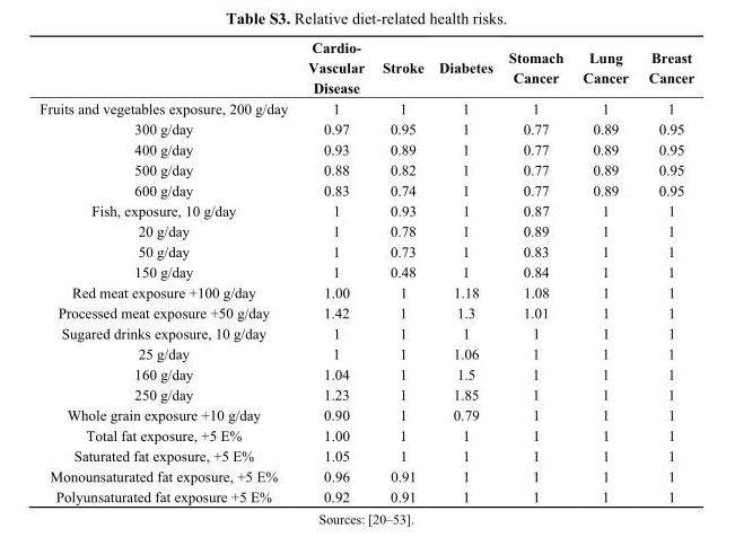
<table><thead><tr><td></td><td>Cardio- Vascular Disease</td><td>Stroke</td><td>Diabetes</td><td>Stomach Cancer</td><td>Lung Cancer</td><td>Breast Cancer</td></tr></thead><tbody><tr><td>Fruits and vegetables exposure, 200 g/day</td><td>1</td><td>1</td><td>1</td><td>1</td><td>1</td><td>1</td></tr><tr><td>300 g/day</td><td>0.97</td><td>0.95</td><td>1</td><td>0.77</td><td>0.89</td><td>0.95</td></tr><tr><td>400 g/day</td><td>0.93</td><td>0.89</td><td>1</td><td>0.77</td><td>0.89</td><td>0.95</td></tr><tr><td>500 g/day</td><td>0.88</td><td>0.82</td><td>1</td><td>0.77</td><td>0.89</td><td>0.95</td></tr><tr><td>600 g/day</td><td>0.83</td><td>0.74</td><td>1</td><td>0.77</td><td>0.89</td><td>0.95</td></tr><tr><td>Fish, exposure, 10 g/day</td><td>1</td><td>0.93</td><td>1</td><td>0.87</td><td>1</td><td>1</td></tr><tr><td>20 g/day</td><td>1</td><td>0.78</td><td>1</td><td>0.89</td><td>1</td><td>1</td></tr><tr><td>50 g/day</td><td>1</td><td>0.73</td><td>1</td><td>0.83</td><td>1</td><td>1</td></tr><tr><td>150 g/day</td><td>1</td><td>0.48</td><td>1</td><td>0.84</td><td>1</td><td>1</td></tr><tr><td>Red meat exposure +100 g/day</td><td>1.00</td><td>1</td><td>1.18</td><td>1.08</td><td>1</td><td>1</td></tr><tr><td>Processed meat exposure +50 g/day</td><td>1.42</td><td>1</td><td>1.3</td><td>1.01</td><td>1</td><td>1</td></tr><tr><td>Sugared drinks exposure, 10 g/day</td><td>1</td><td>1</td><td>1</td><td>1</td><td>1</td><td>1</td></tr><tr><td>25 g/day</td><td>1</td><td>1</td><td>1.06</td><td>1</td><td>1</td><td>1</td></tr><tr><td>160 g/day</td><td>1.04</td><td>1</td><td>1.5</td><td>1</td><td>1</td><td>1</td></tr><tr><td>250 g/day</td><td>1.23</td><td>1</td><td>1.85</td><td>1</td><td>1</td><td>1</td></tr><tr><td>Whole grain exposure +10 g/day</td><td>0.90</td><td>1</td><td>0.79</td><td>1</td><td>1</td><td>1</td></tr><tr><td>Total fat exposure, +5 E%</td><td>1.00</td><td>1</td><td>1</td><td>1</td><td>1</td><td>1</td></tr><tr><td>Saturated fat exposure, +5 E%</td><td>1.05</td><td>1</td><td>1</td><td>1</td><td>1</td><td>1</td></tr><tr><td>Monounsaturated fat exposure, +5 E%</td><td>0.96</td><td>0.91</td><td>1</td><td>1</td><td>1</td><td>1</td></tr><tr><td>Polyunsaturated fat exposure +5 E%</td><td>0.92</td><td>0.91</td><td>1</td><td>1</td><td>1</td><td>1</td></tr></tbody></table>